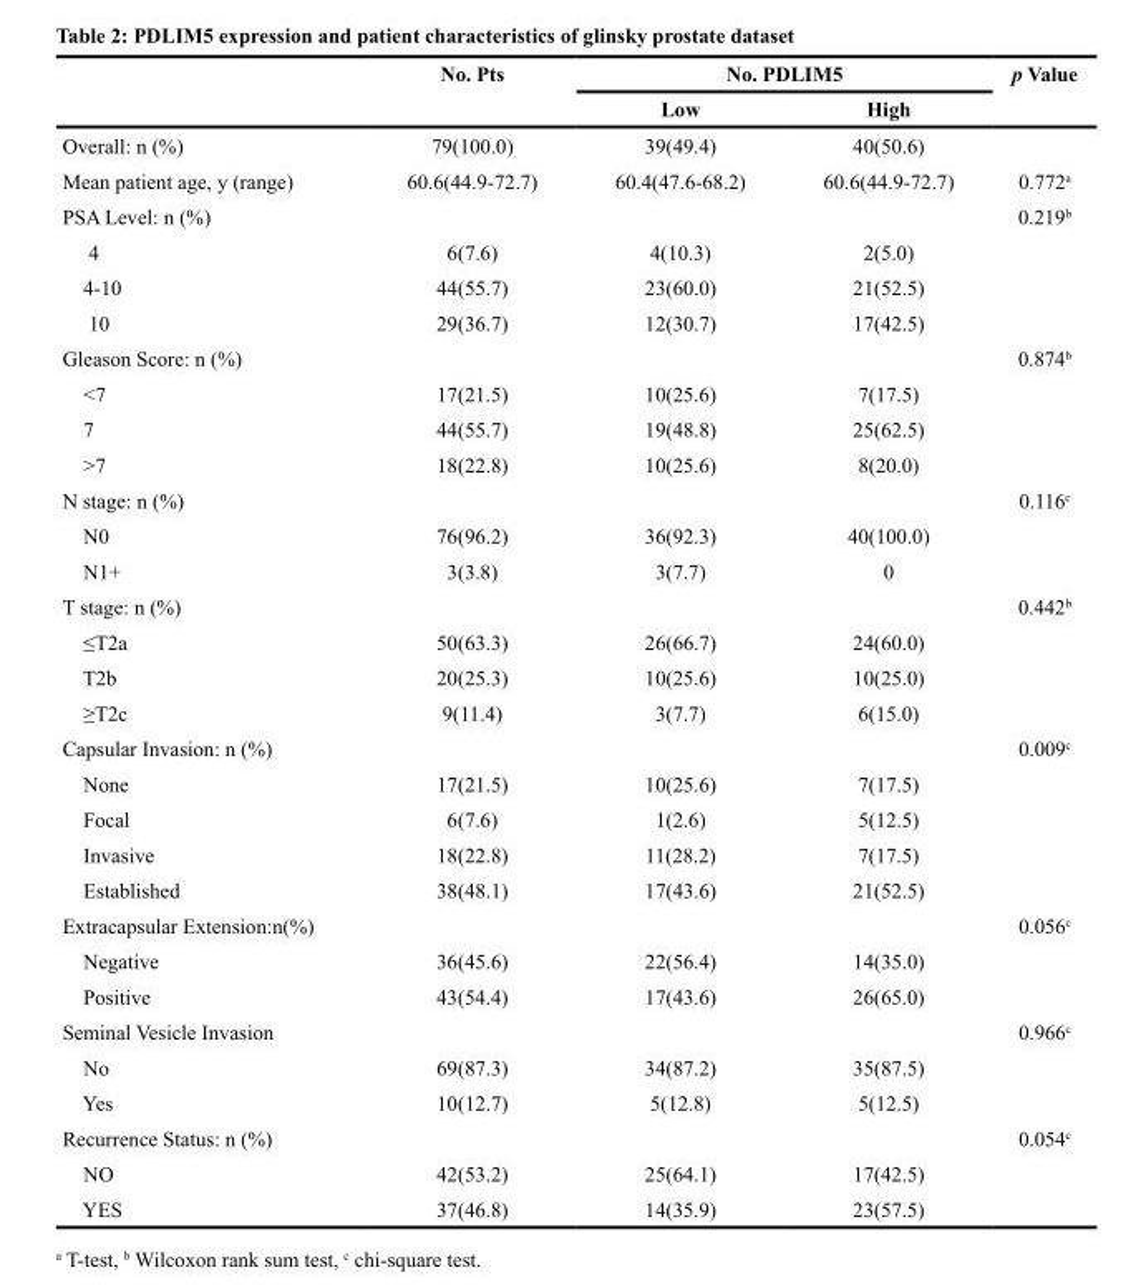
<table><thead><tr><td rowspan="2"></td><td rowspan="2">No. Pts</td><td colspan="2">No. PDLIM5</td><td rowspan="2">p Value</td></tr><tr><td>Low</td><td>High</td></tr></thead><tbody><tr><td>Overall: n (%)</td><td>79(100.0)</td><td>39(49.4)</td><td>40(50.6)</td><td></td></tr><tr><td>Mean patient age, y (range)</td><td>60.6(44.9-72.7)</td><td>60.4(47.6-68.2)</td><td>60.6(44.9-72.7)</td><td>0.772<sup>a</sup></td></tr><tr><td>PSA Level: n (%)</td><td></td><td></td><td></td><td>0.219<sup>b</sup></td></tr><tr><td>4</td><td>6(7.6)</td><td>4(10.3)</td><td>2(5.0)</td><td></td></tr><tr><td>4-10</td><td>44(55.7)</td><td>23(60.0)</td><td>21(52.5)</td><td></td></tr><tr><td>10</td><td>29(36.7)</td><td>12(30.7)</td><td>17(42.5)</td><td></td></tr><tr><td>Gleason Score: n (%)</td><td></td><td></td><td></td><td>0.874<sup>b</sup></td></tr><tr><td>&lt;7</td><td>17(21.5)</td><td>10(25.6)</td><td>7(17.5)</td><td></td></tr><tr><td>7</td><td>44(55.7)</td><td>19(48.8)</td><td>25(62.5)</td><td></td></tr><tr><td>&gt;7</td><td>18(22.8)</td><td>10(25.6)</td><td>8(20.0)</td><td></td></tr><tr><td>N stage: n (%)</td><td></td><td></td><td></td><td>0.116<sup>c</sup></td></tr><tr><td>N0</td><td>76(96.2)</td><td>36(92.3)</td><td>40(100.0)</td><td></td></tr><tr><td>N1+</td><td>3(3.8)</td><td>3(7.7)</td><td>0</td><td></td></tr><tr><td>T stage: n (%)</td><td></td><td></td><td></td><td>0.442<sup>b</sup></td></tr><tr><td>≤T2a</td><td>50(63.3)</td><td>26(66.7)</td><td>24(60.0)</td><td></td></tr><tr><td>T2b</td><td>20(25.3)</td><td>10(25.6)</td><td>10(25.0)</td><td></td></tr><tr><td>≥T2c</td><td>9(11.4)</td><td>3(7.7)</td><td>6(15.0)</td><td></td></tr><tr><td>Capsular Invasion: n (%)</td><td></td><td></td><td></td><td>0.009<sup>c</sup></td></tr><tr><td>None</td><td>17(21.5)</td><td>10(25.6)</td><td>7(17.5)</td><td></td></tr><tr><td>Focal</td><td>6(7.6)</td><td>1(2.6)</td><td>5(12.5)</td><td></td></tr><tr><td>Invasive</td><td>18(22.8)</td><td>11(28.2)</td><td>7(17.5)</td><td></td></tr><tr><td>Established</td><td>38(48.1)</td><td>17(43.6)</td><td>21(52.5)</td><td></td></tr><tr><td>Extracapsular Extension:n(%)</td><td></td><td></td><td></td><td>0.056<sup>c</sup></td></tr><tr><td>Negative</td><td>36(45.6)</td><td>22(56.4)</td><td>14(35.0)</td><td></td></tr><tr><td>Positive</td><td>43(54.4)</td><td>17(43.6)</td><td>26(65.0)</td><td></td></tr><tr><td>Seminal Vesicle Invasion</td><td></td><td></td><td></td><td>0.966<sup>c</sup></td></tr><tr><td>No</td><td>69(87.3)</td><td>34(87.2)</td><td>35(87.5)</td><td></td></tr><tr><td>Yes</td><td>10(12.7)</td><td>5(12.8)</td><td>5(12.5)</td><td></td></tr><tr><td>Recurrence Status: n (%)</td><td></td><td></td><td></td><td>0.054<sup>c</sup></td></tr><tr><td>NO</td><td>42(53.2)</td><td>25(64.1)</td><td>17(42.5)</td><td></td></tr><tr><td>YES</td><td>37(46.8)</td><td>14(35.9)</td><td>23(57.5)</td><td></td></tr></tbody></table>